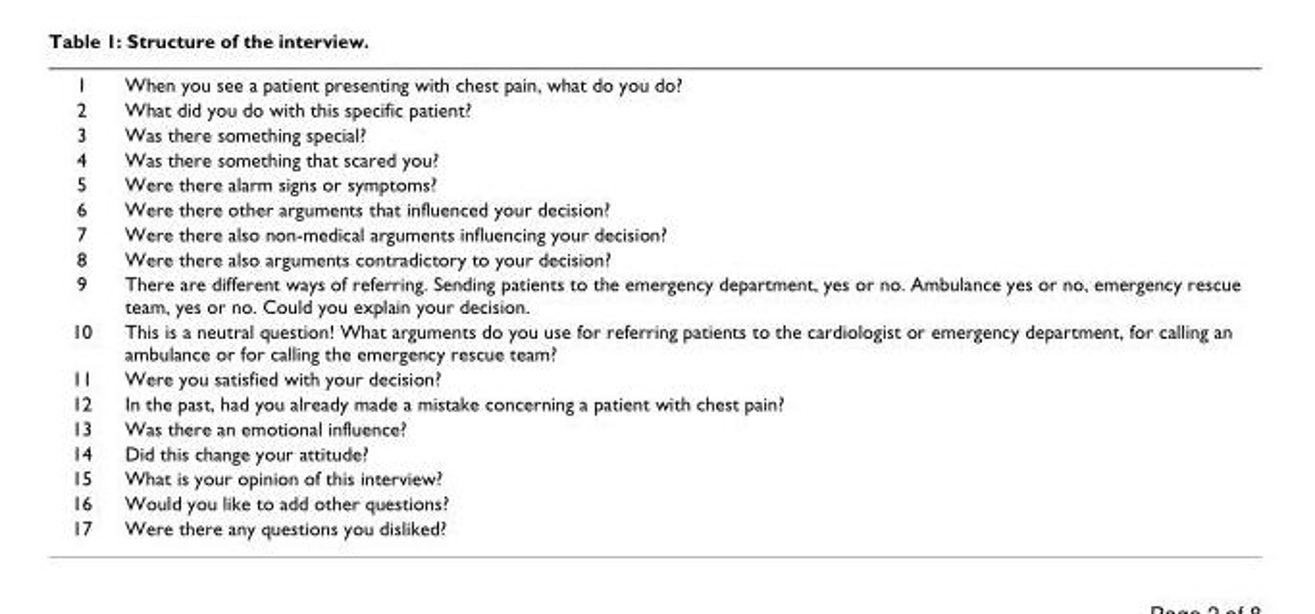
<table><tbody><tr><td>1</td><td>When you see a patient presenting with chest pain, what do you do?</td></tr><tr><td>2</td><td>What did you do with this specific patient?</td></tr><tr><td>3</td><td>Was there something special?</td></tr><tr><td>4</td><td>Was there something that scared you?</td></tr><tr><td>5</td><td>Were there alarm signs or symptoms?</td></tr><tr><td>6</td><td>Were there other arguments that influenced your decision?</td></tr><tr><td>7</td><td>Were there also non-medical arguments influencing your decision?</td></tr><tr><td>8</td><td>Were there also arguments contradictory to your decision?</td></tr><tr><td>9</td><td>There are different ways of referring. Sending patients to the emergency department, yes or no. Ambulance yes or no, emergency rescue team, yes or no. Could you explain your decision.</td></tr><tr><td>10</td><td>This is a neutral question! What arguments do you use for referring patients to the cardiologist or emergency department, for calling an ambulance or for calling the emergency rescue team?</td></tr><tr><td>11</td><td>Were you satisfied with your decision?</td></tr><tr><td>12</td><td>In the past, had you already made a mistake concerning a patient with chest pain?</td></tr><tr><td>13</td><td>Was there an emotional influence?</td></tr><tr><td>14</td><td>Did this change your attitude?</td></tr><tr><td>15</td><td>What is your opinion of this interview?</td></tr><tr><td>16</td><td>Would you like to add other questions?</td></tr><tr><td>17</td><td>Were there any questions you disliked?</td></tr></tbody></table>